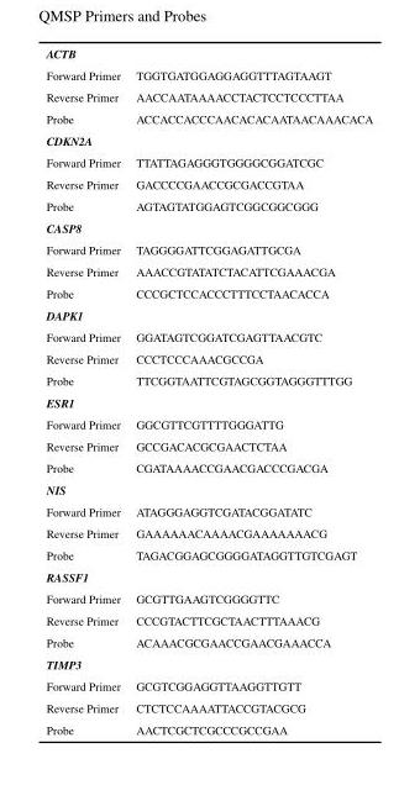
<table><tbody><tr><td colspan="2">ACTB</td></tr><tr><td>Forward Primer</td><td>TGGTGATGGAGGAGGTTTAGTAAGT</td></tr><tr><td>Reverse Primer</td><td>AACCAATAAAACCTACTCCTCCCTTAA</td></tr><tr><td>Probe</td><td>ACCACCACCCAACACACAATAACAAACACA</td></tr><tr><td colspan="2">CDKN2A</td></tr><tr><td>Forward Primer</td><td>TTATTAGAGGGTGGGGCGGATCGC</td></tr><tr><td>Reverse Primer</td><td>GACCCCGAACCGCGACCGTAA</td></tr><tr><td>Probe</td><td>AGTAGTATGGAGTCGGCGGCGGG</td></tr><tr><td colspan="2">CASP8</td></tr><tr><td>Forward Primer</td><td>TAGGGGATTCGGAGATTGCGA</td></tr><tr><td>Reverse Primer</td><td>AAACCGTATATCTACATTCGAAACGA</td></tr><tr><td>Probe</td><td>CCCGCTCCACCCTTTCCTAACACCA</td></tr><tr><td colspan="2">DAPK1</td></tr><tr><td>Forward Primer</td><td>GGATAGTCGGATCGAGTTAACGTC</td></tr><tr><td>Reverse Primer</td><td>CCCTCCCAAACGCCGA</td></tr><tr><td>Probe</td><td>TTCGGTAATTCGTAGCGGTAGGGTTTGG</td></tr><tr><td colspan="2">ESR1</td></tr><tr><td>Forward Primer</td><td>GGCGTTCGTTTTGGGATTG</td></tr><tr><td>Reverse Primer</td><td>GCCGACACGCGAACTCTAA</td></tr><tr><td>Probe</td><td>CGATAAAACCGAACGACCCGACGA</td></tr><tr><td colspan="2">NIS</td></tr><tr><td>Forward Primer</td><td>ATAGGGAGGTCGATACGGATATC</td></tr><tr><td>Reverse Primer</td><td>GAAAAAACAAAACGAAAAAAACG</td></tr><tr><td>Probe</td><td>TAGACGGAGCGGGGATAGGTTGTCGAGT</td></tr><tr><td colspan="2">RASSF1</td></tr><tr><td>Forward Primer</td><td>GCGTTGAAGTCGGGGTTC</td></tr><tr><td>Reverse Primer</td><td>CCCGTACTTCGCTAACTTTAAACG</td></tr><tr><td>Probe</td><td>ACAAACGCGAACCGAACGAAACCA</td></tr><tr><td colspan="2">TIMP3</td></tr><tr><td>Forward Primer</td><td>GCGTCGGAGGTTAAGGTTGTT</td></tr><tr><td>Reverse Primer</td><td>CTCTCCAAAATTACCGTACGCG</td></tr><tr><td>Probe</td><td>AACTCGCTCGCCCGCCGAA</td></tr></tbody></table>